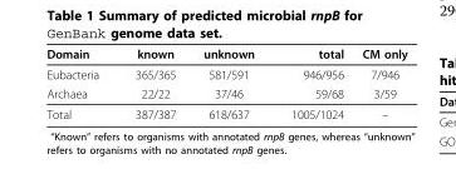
<table><thead><tr><td>Domain</td><td>known</td><td>unknown</td><td>total</td><td>CM only</td></tr></thead><tbody><tr><td>Eubacteria</td><td>365/365</td><td>581/591</td><td>946/956</td><td>7/946</td></tr><tr><td>Archaea</td><td>22/22</td><td>37/46</td><td>59/68</td><td>3/59</td></tr><tr><td>Total</td><td>387/387</td><td>618/637</td><td>1005/1024</td><td>–</td></tr></tbody></table>